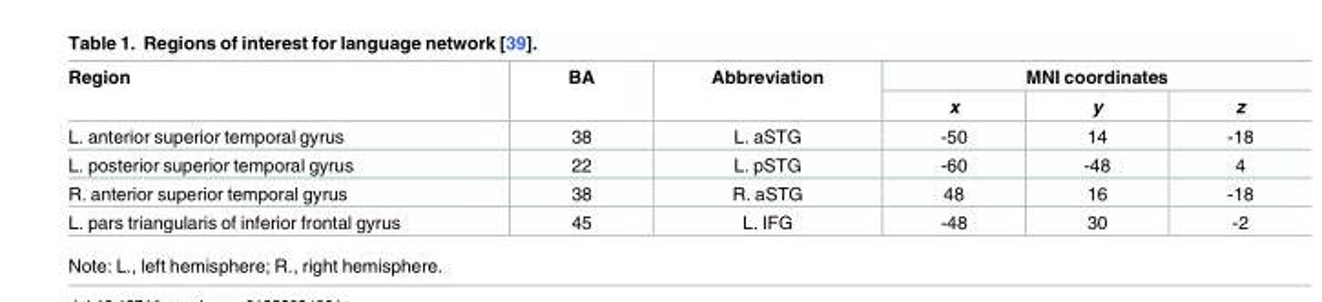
<table><thead><tr><td rowspan="2">Region</td><td rowspan="2">BA</td><td rowspan="2">Abbreviation</td><td colspan="3">MNI coordinates</td></tr><tr><td>x</td><td>y</td><td>z</td></tr></thead><tbody><tr><td>L. anterior superior temporal gyrus</td><td>38</td><td>L. aSTG</td><td>-50</td><td>14</td><td>-18</td></tr><tr><td>L. posterior superior temporal gyrus</td><td>22</td><td>L. pSTG</td><td>-60</td><td>-48</td><td>4</td></tr><tr><td>R. anterior superior temporal gyrus</td><td>38</td><td>R. aSTG</td><td>48</td><td>16</td><td>-18</td></tr><tr><td>L. pars triangularis of inferior frontal gyrus</td><td>45</td><td>L. IFG</td><td>-48</td><td>30</td><td>-2</td></tr></tbody></table>